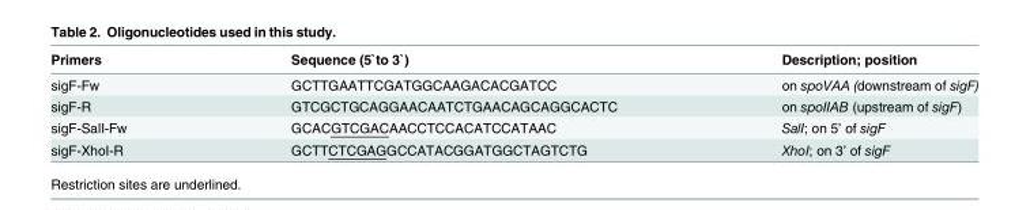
<table><thead><tr><td>Primers</td><td>Sequence (5`to 3`)</td><td>Description; position</td></tr></thead><tbody><tr><td>sigF-Fw</td><td>GCTTGAATTCGATGGCAAGACACGATCC</td><td>on spoVAA (downstream of sigF)</td></tr><tr><td>sigF-R</td><td>GTCGCTGCAGGAACAATCTGAACAGCAGGCACTC</td><td>on spoIIAB (upstream of sigF)</td></tr><tr><td>sigF-SalI-Fw</td><td>GCACGTCGACAACCTCCACATCCATAAC</td><td>SalI; on 5’ of sigF</td></tr><tr><td>sigF-XhoI-R</td><td>GCTTCTCGAGGCCATACGGATGGCTAGTCTG</td><td>XhoI; on 3’ of sigF</td></tr></tbody></table>